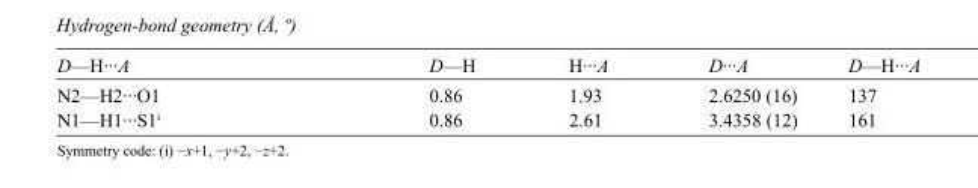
<table><tbody><tr><td>D—H···A</td><td>D—H</td><td>H···A</td><td>D···A</td><td>D—H···A</td></tr><tr><td>N2—H2···O1</td><td>0.86</td><td>1.93</td><td>2.6250 (16)</td><td>137</td></tr><tr><td>N1—H1···S1<sup>i</sup></td><td>0.86</td><td>2.61</td><td>3.4358 (12)</td><td>161</td></tr></tbody></table>